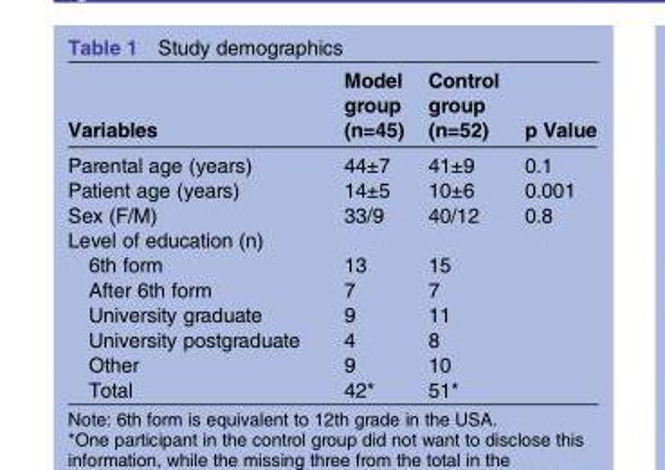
<table><thead><tr><td>Variables</td><td>Model group (n=45)</td><td>Control group (n=52)</td><td>p Value</td></tr></thead><tbody><tr><td>Parental age (years)</td><td>44±7</td><td>41±9</td><td>0.1</td></tr><tr><td>Patient age (years)</td><td>14±5</td><td>10±6</td><td>0.001</td></tr><tr><td>Sex (F/M)</td><td>33/9</td><td>40/12</td><td>0.8</td></tr><tr><td colspan="4">Level of education (n)</td></tr><tr><td>6th form</td><td>13</td><td>15</td><td></td></tr><tr><td>After 6th form</td><td>7</td><td>7</td><td></td></tr><tr><td>University graduate</td><td>9</td><td>11</td><td></td></tr><tr><td>University postgraduate</td><td>4</td><td>8</td><td></td></tr><tr><td>Other</td><td>9</td><td>10</td><td></td></tr><tr><td>Total</td><td>42*</td><td>51*</td><td></td></tr></tbody></table>